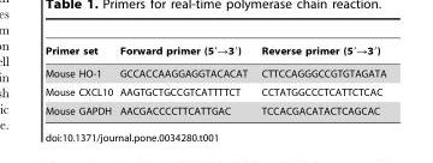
<table><thead><tr><td>Primer set</td><td>Forward primer (5′→3′)</td><td>Reverse primer (5′→3′)</td></tr></thead><tbody><tr><td>Mouse HO-1</td><td>GCCACCAAGGAGGTACACAT</td><td>CTTCCAGGGCCGTGTAGATA</td></tr><tr><td>Mouse CXCL10</td><td>AAGTGCTGCCGTCATTTTCT</td><td>CCTATGGCCCTCATTCTCAC</td></tr><tr><td>Mouse GAPDH</td><td>AACGACCCCTTCATTGAC</td><td>TCCACGACATACTCAGCAC</td></tr></tbody></table>